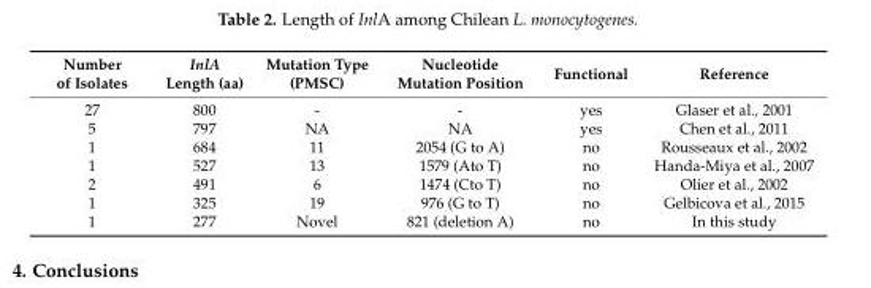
<table><thead><tr><td>Number of Isolates</td><td>InlA Length (aa)</td><td>Mutation Type (PMSC)</td><td>Nucleotide Mutation Position</td><td>Functional</td><td>Reference</td></tr></thead><tbody><tr><td>27</td><td>800</td><td>-</td><td>-</td><td>yes</td><td>Glaser et al., 2001</td></tr><tr><td>5</td><td>797</td><td>NA</td><td>NA</td><td>yes</td><td>Chen et al., 2011</td></tr><tr><td>1</td><td>684</td><td>11</td><td>2054 (G to A)</td><td>no</td><td>Rousseaux et al., 2002</td></tr><tr><td>1</td><td>527</td><td>13</td><td>1579 (Ato T)</td><td>no</td><td>Handa-Miya et al., 2007</td></tr><tr><td>2</td><td>491</td><td>6</td><td>1474 (Cto T)</td><td>no</td><td>Olier et al., 2002</td></tr><tr><td>1</td><td>325</td><td>19</td><td>976 (G to T)</td><td>no</td><td>Gelbicova et al., 2015</td></tr><tr><td>1</td><td>277</td><td>Novel</td><td>821 (deletion A)</td><td>no</td><td>In this study</td></tr></tbody></table>